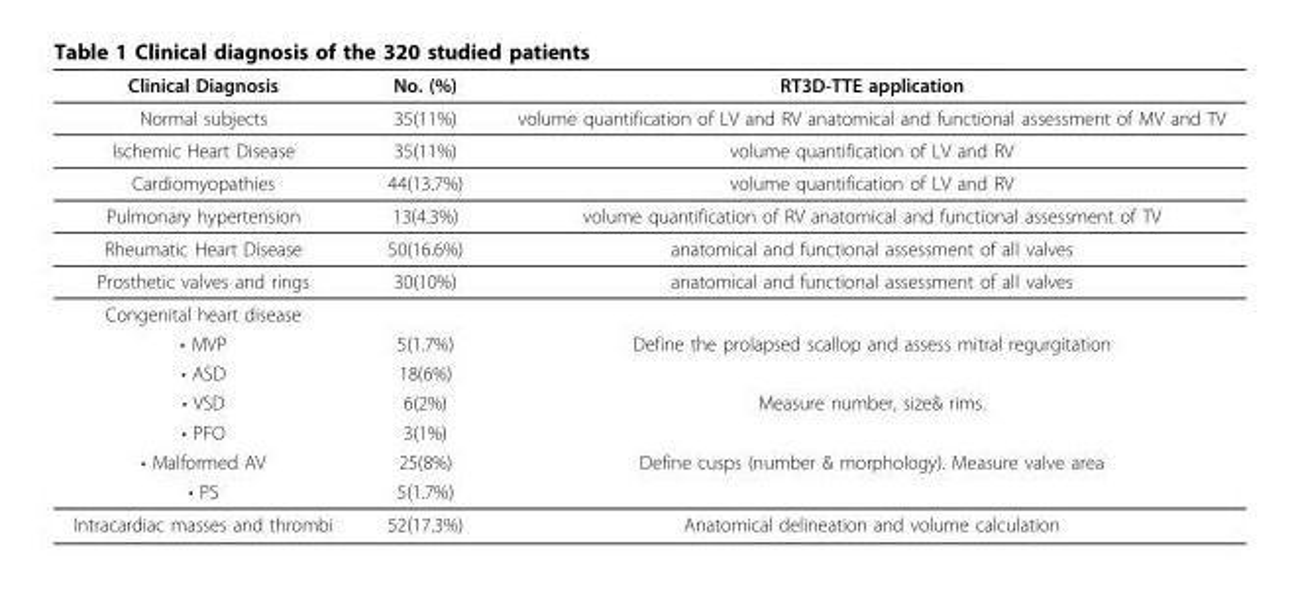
<table><thead><tr><td>Clinical Diagnosis</td><td>No. (%)</td><td>RT3D-TTE application</td></tr></thead><tbody><tr><td>Normal subjects</td><td>35(11%)</td><td>volume quantification of LV and RV anatomical and functional assessment of MV and TV</td></tr><tr><td>Ischemic Heart Disease</td><td>35(11%)</td><td>volume quantification of LV and RV</td></tr><tr><td>Cardiomyopathies</td><td>44(13.7%)</td><td>volume quantification of LV and RV</td></tr><tr><td>Pulmonary hypertension</td><td>13(4.3%)</td><td>volume quantification of RV anatomical and functional assessment of TV</td></tr><tr><td>Rheumatic Heart Disease</td><td>50(16.6%)</td><td>anatomical and functional assessment of all valves</td></tr><tr><td>Prosthetic valves and rings</td><td>30(10%)</td><td>anatomical and functional assessment of all valves</td></tr><tr><td colspan="3">Congenital heart disease</td></tr><tr><td>• MVP</td><td>5(1.7%)</td><td>Define the prolapsed scallop and assess mitral regurgitation</td></tr><tr><td>• ASD</td><td>18(6%)</td><td></td></tr><tr><td>• VSD</td><td>6(2%)</td><td>Measure number, size&amp; rims.</td></tr><tr><td>• PFO</td><td>3(1%)</td><td></td></tr><tr><td>• Malformed AV</td><td>25(8%)</td><td>Define cusps (number &amp; morphology). Measure valve area</td></tr><tr><td>• PS</td><td>5(1.7%)</td><td></td></tr><tr><td>Intracardiac masses and thrombi</td><td>52(17.3%)</td><td>Anatomical delineation and volume calculation</td></tr></tbody></table>